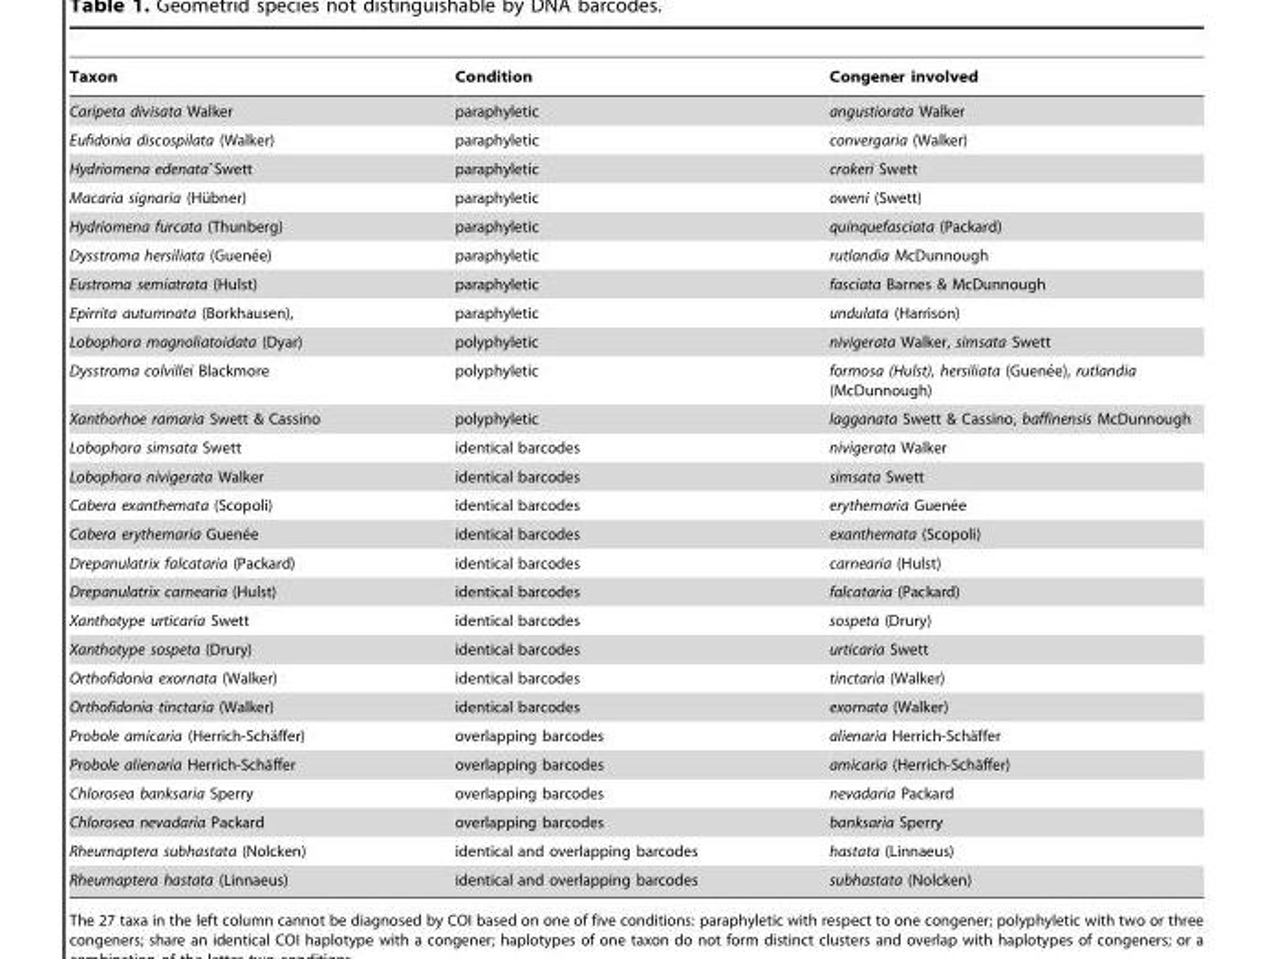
<table><thead><tr><td>Taxon</td><td>Condition</td><td>Congener involved</td></tr></thead><tbody><tr><td>Caripeta divisata Walker</td><td>paraphyletic</td><td>angustiorata Walker</td></tr><tr><td>Eufidonia discospilata (Walker)</td><td>paraphyletic</td><td>convergaria (Walker)</td></tr><tr><td>Hydriomena edenataˆSwett</td><td>paraphyletic</td><td>crokeri Swett</td></tr><tr><td>Macaria signaria (Hu¨bner)</td><td>paraphyletic</td><td>oweni (Swett)</td></tr><tr><td>Hydriomena furcata (Thunberg)</td><td>paraphyletic</td><td>quinquefasciata (Packard)</td></tr><tr><td>Dysstroma hersiliata (Guene´e)</td><td>paraphyletic</td><td>rutlandia McDunnough</td></tr><tr><td>Eustroma semiatrata (Hulst)</td><td>paraphyletic</td><td>fasciata Barnes &amp; McDunnough</td></tr><tr><td>Epirrita autumnata (Borkhausen),</td><td>paraphyletic</td><td>undulata (Harrison)</td></tr><tr><td>Lobophora magnoliatoidata (Dyar)</td><td>polyphyletic</td><td>nivigerata Walker, simsata Swett</td></tr><tr><td>Dysstroma colvillei Blackmore</td><td>polyphyletic</td><td>formosa (Hulst), hersiliata (Guene´e), rutlandia (McDunnough)</td></tr><tr><td>Xanthorhoe ramaria Swett &amp; Cassino</td><td>polyphyletic</td><td>lagganata Swett &amp; Cassino, baffinensis McDunnough</td></tr><tr><td>Lobophora simsata Swett</td><td>identical barcodes</td><td>nivigerata Walker</td></tr><tr><td>Lobophora nivigerata Walker</td><td>identical barcodes</td><td>simsata Swett</td></tr><tr><td>Cabera exanthemata (Scopoli)</td><td>identical barcodes</td><td>erythemaria Guene´e</td></tr><tr><td>Cabera erythemaria Guene´e</td><td>identical barcodes</td><td>exanthemata (Scopoli)</td></tr><tr><td>Drepanulatrix falcataria (Packard)</td><td>identical barcodes</td><td>carnearia (Hulst)</td></tr><tr><td>Drepanulatrix carnearia (Hulst)</td><td>identical barcodes</td><td>falcataria (Packard)</td></tr><tr><td>Xanthotype urticaria Swett</td><td>identical barcodes</td><td>sospeta (Drury)</td></tr><tr><td>Xanthotype sospeta (Drury)</td><td>identical barcodes</td><td>urticaria Swett</td></tr><tr><td>Orthofidonia exornata (Walker)</td><td>identical barcodes</td><td>tinctaria (Walker)</td></tr><tr><td>Orthofidonia tinctaria (Walker)</td><td>identical barcodes</td><td>exornata (Walker)</td></tr><tr><td>Probole amicaria (Herrich-Scha¨ffer)</td><td>overlapping barcodes</td><td>alienaria Herrich-Scha¨ffer</td></tr><tr><td>Probole alienaria Herrich-Scha¨ffer</td><td>overlapping barcodes</td><td>amicaria (Herrich-Scha¨ffer)</td></tr><tr><td>Chlorosea banksaria Sperry</td><td>overlapping barcodes</td><td>nevadaria Packard</td></tr><tr><td>Chlorosea nevadaria Packard</td><td>overlapping barcodes</td><td>banksaria Sperry</td></tr><tr><td>Rheumaptera subhastata (Nolcken)</td><td>identical and overlapping barcodes</td><td>hastata (Linnaeus)</td></tr><tr><td>Rheumaptera hastata (Linnaeus)</td><td>identical and overlapping barcodes</td><td>subhastata (Nolcken)</td></tr></tbody></table>